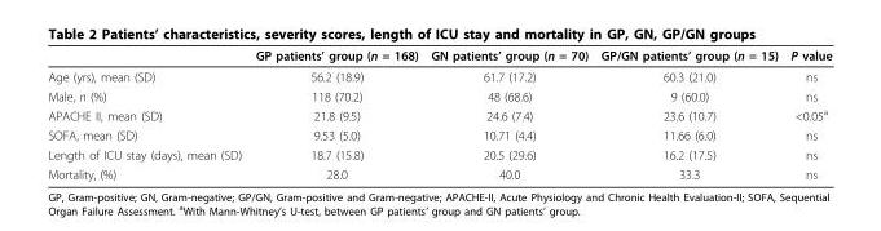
<table><thead><tr><td></td><td>GP patients’ group (n = 168)</td><td>GN patients’ group (n = 70)</td><td>GP/GN patients’ group (n = 15)</td><td>P value</td></tr></thead><tbody><tr><td>Age (yrs), mean (SD)</td><td>56.2 (18.9)</td><td>61.7 (17.2)</td><td>60.3 (21.0)</td><td>ns</td></tr><tr><td>Male, n (%)</td><td>118 (70.2)</td><td>48 (68.6)</td><td>9 (60.0)</td><td>ns</td></tr><tr><td>APACHE II, mean (SD)</td><td>21.8 (9.5)</td><td>24.6 (7.4)</td><td>23.6 (10.7)</td><td>&lt;0.05<sup>a</sup></td></tr><tr><td>SOFA, mean (SD)</td><td>9.53 (5.0)</td><td>10.71 (4.4)</td><td>11.66 (6.0)</td><td>ns</td></tr><tr><td>Length of ICU stay (days), mean (SD)</td><td>18.7 (15.8)</td><td>20.5 (29.6)</td><td>16.2 (17.5)</td><td>ns</td></tr><tr><td>Mortality, (%)</td><td>28.0</td><td>40.0</td><td>33.3</td><td>ns</td></tr></tbody></table>